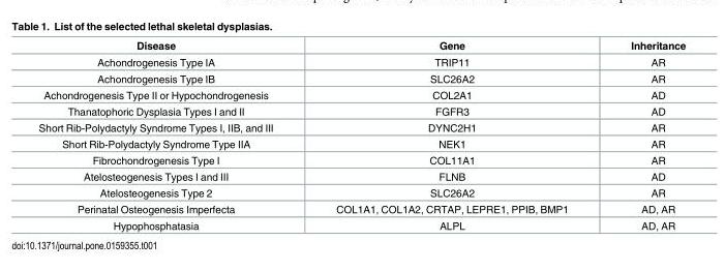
<table><thead><tr><td>Disease</td><td>Gene</td><td>Inheritance</td></tr></thead><tbody><tr><td>Achondrogenesis Type IA</td><td>TRIP11</td><td>AR</td></tr><tr><td>Achondrogenesis Type IB</td><td>SLC26A2</td><td>AR</td></tr><tr><td>Achondrogenesis Type II or Hypochondrogenesis</td><td>COL2A1</td><td>AD</td></tr><tr><td>Thanatophoric Dysplasia Types I and II</td><td>FGFR3</td><td>AD</td></tr><tr><td>Short Rib-Polydactyly Syndrome Types I, IIB, and III</td><td>DYNC2H1</td><td>AR</td></tr><tr><td>Short Rib-Polydactyly Syndrome Type IIA</td><td>NEK1</td><td>AR</td></tr><tr><td>Fibrochondrogenesis Type I</td><td>COL11A1</td><td>AR</td></tr><tr><td>Atelosteogenesis Types I and III</td><td>FLNB</td><td>AD</td></tr><tr><td>Atelosteogenesis Type 2</td><td>SLC26A2</td><td>AR</td></tr><tr><td>Perinatal Osteogenesis Imperfecta</td><td>COL1A1, COL1A2, CRTAP, LEPRE1, PPIB, BMP1</td><td>AD, AR</td></tr><tr><td>Hypophosphatasia</td><td>ALPL</td><td>AD, AR</td></tr></tbody></table>